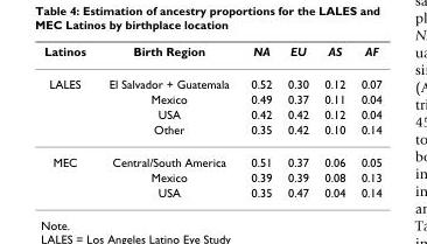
<table><thead><tr><td>Latinos</td><td>Birth Region</td><td>NA</td><td>EU</td><td>AS</td><td>AF</td></tr></thead><tbody><tr><td rowspan="4">LALES</td><td>El Salvador + Guatemala</td><td>0.52</td><td>0.30</td><td>0.12</td><td>0.07</td></tr><tr><td>Mexico</td><td>0.49</td><td>0.37</td><td>0.11</td><td>0.04</td></tr><tr><td>USA</td><td>0.42</td><td>0.42</td><td>0.12</td><td>0.04</td></tr><tr><td>Other</td><td>0.35</td><td>0.42</td><td>0.10</td><td>0.14</td></tr><tr><td rowspan="3">MEC</td><td>Central/South America</td><td>0.51</td><td>0.37</td><td>0.06</td><td>0.05</td></tr><tr><td>Mexico</td><td>0.39</td><td>0.39</td><td>0.08</td><td>0.13</td></tr><tr><td>USA</td><td>0.35</td><td>0.47</td><td>0.04</td><td>0.14</td></tr></tbody></table>